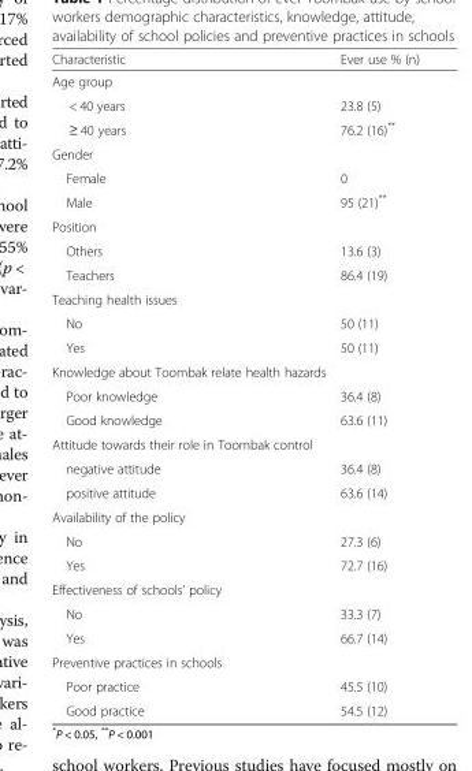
<table><thead><tr><td>Characteristic</td><td>Ever use % (n)</td></tr></thead><tbody><tr><td colspan="2">Age group</td></tr><tr><td>&lt; 40 years</td><td>23.8 (5)</td></tr><tr><td>≥ 40 years</td><td>76.2 (16)**</td></tr><tr><td colspan="2">Gender</td></tr><tr><td>Female</td><td>0</td></tr><tr><td>Male</td><td>95 (21)**</td></tr><tr><td colspan="2">Position</td></tr><tr><td>Others</td><td>13.6 (3)</td></tr><tr><td>Teachers</td><td>86.4 (19)</td></tr><tr><td colspan="2">Teaching health issues</td></tr><tr><td>No</td><td>50 (11)</td></tr><tr><td>Yes</td><td>50 (11)</td></tr><tr><td colspan="2">Knowledge about Toombak relate health hazards</td></tr><tr><td>Poor knowledge</td><td>36.4 (8)</td></tr><tr><td>Good knowledge</td><td>63.6 (11)</td></tr><tr><td colspan="2">Attitude towards their role in Toombak control</td></tr><tr><td>negative attitude</td><td>36.4 (8)</td></tr><tr><td>positive attitude</td><td>63.6 (14)</td></tr><tr><td colspan="2">Availability of the policy</td></tr><tr><td>No</td><td>27.3 (6)</td></tr><tr><td>Yes</td><td>72.7 (16)</td></tr><tr><td colspan="2">Effectiveness of schools’ policy</td></tr><tr><td>No</td><td>33.3 (7)</td></tr><tr><td>Yes</td><td>66.7 (14)</td></tr><tr><td colspan="2">Preventive practices in schools</td></tr><tr><td>Poor practice</td><td>45.5 (10)</td></tr><tr><td>Good practice</td><td>54.5 (12)</td></tr></tbody></table>